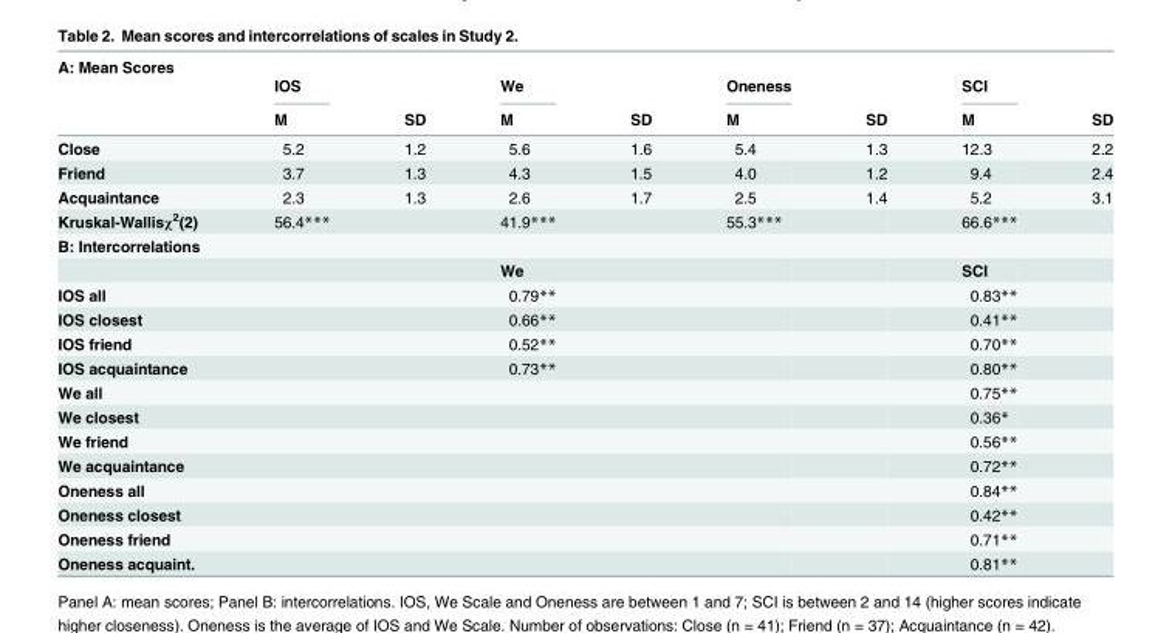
<table><thead><tr><td rowspan="3">A: Mean Scores</td><td rowspan="3">IOS M</td><td rowspan="3">SD</td><td rowspan="3">We M</td><td rowspan="3">SD</td><td rowspan="3">Oneness M</td><td rowspan="3">SD</td><td rowspan="3">SCI M</td><td rowspan="3">SD</td></tr><tr></tr><tr></tr></thead><tbody><tr><td>Close</td><td>5.2</td><td>1.2</td><td>5.6</td><td>1.6</td><td>5.4</td><td>1.3</td><td>12.3</td><td>2.2</td></tr><tr><td>Friend</td><td>3.7</td><td>1.3</td><td>4.3</td><td>1.5</td><td>4.0</td><td>1.2</td><td>9.4</td><td>2.4</td></tr><tr><td>Acquaintance</td><td>2.3</td><td>1.3</td><td>2.6</td><td>1.7</td><td>2.5</td><td>1.4</td><td>5.2</td><td>3.1</td></tr><tr><td>Kruskal-Wallisχ<sup>2</sup>(2)</td><td>56.4***</td><td></td><td>41.9***</td><td></td><td>55.3***</td><td></td><td>66.6***</td><td></td></tr><tr><td colspan="9">B: Intercorrelations</td></tr><tr><td></td><td></td><td></td><td>We</td><td></td><td></td><td></td><td>SCI</td><td></td></tr><tr><td>IOS all</td><td></td><td></td><td>0.79**</td><td></td><td></td><td></td><td>0.83**</td><td></td></tr><tr><td>IOS closest</td><td></td><td></td><td>0.66**</td><td></td><td></td><td></td><td>0.41**</td><td></td></tr><tr><td>IOS friend</td><td></td><td></td><td>0.52**</td><td></td><td></td><td></td><td>0.70**</td><td></td></tr><tr><td>IOS acquaintance</td><td></td><td></td><td>0.73**</td><td></td><td></td><td></td><td>0.80**</td><td></td></tr><tr><td>We all</td><td></td><td></td><td></td><td></td><td></td><td></td><td>0.75**</td><td></td></tr><tr><td>We closest</td><td></td><td></td><td></td><td></td><td></td><td></td><td>0.36*</td><td></td></tr><tr><td>We friend</td><td></td><td></td><td></td><td></td><td></td><td></td><td>0.56**</td><td></td></tr><tr><td>We acquaintance</td><td></td><td></td><td></td><td></td><td></td><td></td><td>0.72**</td><td></td></tr><tr><td>Oneness all</td><td></td><td></td><td></td><td></td><td></td><td></td><td>0.84**</td><td></td></tr><tr><td>Oneness closest</td><td></td><td></td><td></td><td></td><td></td><td></td><td>0.42**</td><td></td></tr><tr><td>Oneness friend</td><td></td><td></td><td></td><td></td><td></td><td></td><td>0.71**</td><td></td></tr><tr><td>Oneness acquaint.</td><td></td><td></td><td></td><td></td><td></td><td></td><td>0.81**</td><td></td></tr></tbody></table>